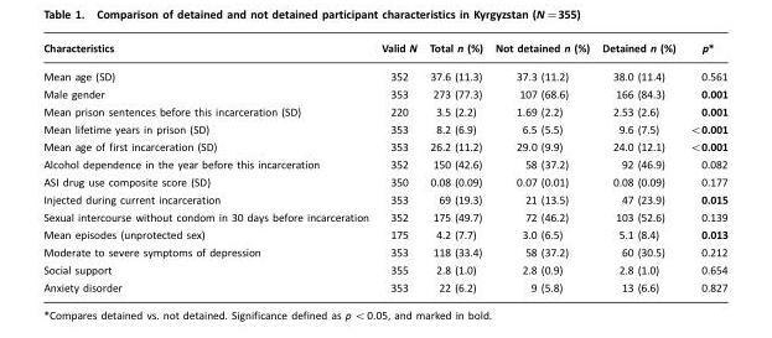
<table><thead><tr><td>Characteristics</td><td>Valid N</td><td>Total n (%)</td><td>Not detained n (%)</td><td>Detained n (%)</td><td>p*</td></tr></thead><tbody><tr><td>Mean age (SD)</td><td>352</td><td>37.6 (11.3)</td><td>37.3 (11.2)</td><td>38.0 (11.4)</td><td>0.561</td></tr><tr><td>Male gender</td><td>353</td><td>273 (77.3)</td><td>107 (68.6)</td><td>166 (84.3)</td><td>0.001</td></tr><tr><td>Mean prison sentences before this incarceration (SD)</td><td>220</td><td>3.5 (2.2)</td><td>1.69 (2.2)</td><td>2.53 (2.6)</td><td>0.001</td></tr><tr><td>Mean lifetime years in prison (SD)</td><td>353</td><td>8.2 (6.9)</td><td>6.5 (5.5)</td><td>9.6 (7.5)</td><td>&lt;0.001</td></tr><tr><td>Mean age of first incarceration (SD)</td><td>353</td><td>26.2 (11.2)</td><td>29.0 (9.9)</td><td>24.0 (12.1)</td><td>&lt;0.001</td></tr><tr><td>Alcohol dependence in the year before this incarceration</td><td>352</td><td>150 (42.6)</td><td>58 (37.2)</td><td>92 (46.9)</td><td>0.082</td></tr><tr><td>ASI drug use composite score (SD)</td><td>350</td><td>0.08 (0.09)</td><td>0.07 (0.01)</td><td>0.08 (0.09)</td><td>0.177</td></tr><tr><td>Injected during current incarceration</td><td>353</td><td>69 (19.3)</td><td>21 (13.5)</td><td>47 (23.9)</td><td>0.015</td></tr><tr><td>Sexual intercourse without condom in 30 days before incarceration</td><td>352</td><td>175 (49.7)</td><td>72 (46.2)</td><td>103 (52.6)</td><td>0.139</td></tr><tr><td>Mean episodes (unprotected sex)</td><td>175</td><td>4.2 (7.7)</td><td>3.0 (6.5)</td><td>5.1 (8.4)</td><td>0.013</td></tr><tr><td>Moderate to severe symptoms of depression</td><td>353</td><td>118 (33.4)</td><td>58 (37.2)</td><td>60 (30.5)</td><td>0.212</td></tr><tr><td>Social support</td><td>355</td><td>2.8 (1.0)</td><td>2.8 (0.9)</td><td>2.8 (1.0)</td><td>0.654</td></tr><tr><td>Anxiety disorder</td><td>353</td><td>22 (6.2)</td><td>9 (5.8)</td><td>13 (6.6)</td><td>0.827</td></tr></tbody></table>